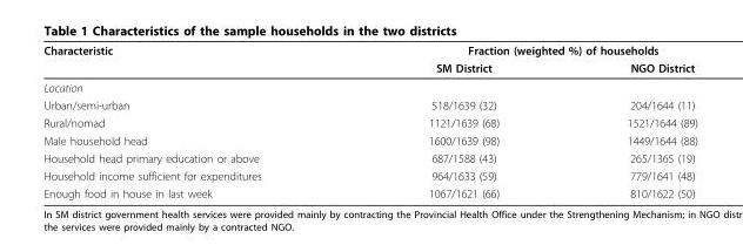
<table><thead><tr><td rowspan="2">Characteristic</td><td colspan="2">Fraction (weighted %) of households</td></tr><tr><td>SM District</td><td>NGO District</td></tr></thead><tbody><tr><td colspan="3">Location</td></tr><tr><td>Urban/semi-urban</td><td>518/1639 (32)</td><td>204/1644 (11)</td></tr><tr><td>Rural/nomad</td><td>1121/1639 (68)</td><td>1521/1644 (89)</td></tr><tr><td>Male household head</td><td>1600/1639 (98)</td><td>1449/1644 (88)</td></tr><tr><td>Household head primary education or above</td><td>687/1588 (43)</td><td>265/1365 (19)</td></tr><tr><td>Household income sufficient for expenditures</td><td>964/1633 (59)</td><td>779/1641 (48)</td></tr><tr><td>Enough food in house in last week</td><td>1067/1621 (66)</td><td>810/1622 (50)</td></tr></tbody></table>